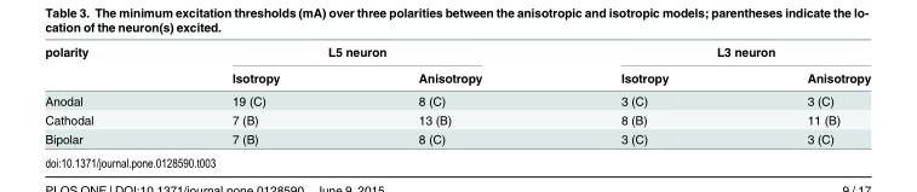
<table><thead><tr><td rowspan="2">polarity</td><td colspan="2">L5 neuron</td><td colspan="2">L3 neuron</td></tr><tr><td>Isotropy</td><td>Anisotropy</td><td>Isotropy</td><td>Anisotropy</td></tr></thead><tbody><tr><td>Anodal</td><td>19 (C)</td><td>8 (C)</td><td>3 (C)</td><td>3 (C)</td></tr><tr><td>Cathodal</td><td>7 (B)</td><td>13 (B)</td><td>8 (B)</td><td>11 (B)</td></tr><tr><td>Bipolar</td><td>7 (B)</td><td>8 (C)</td><td>3 (C)</td><td>3 (C)</td></tr></tbody></table>